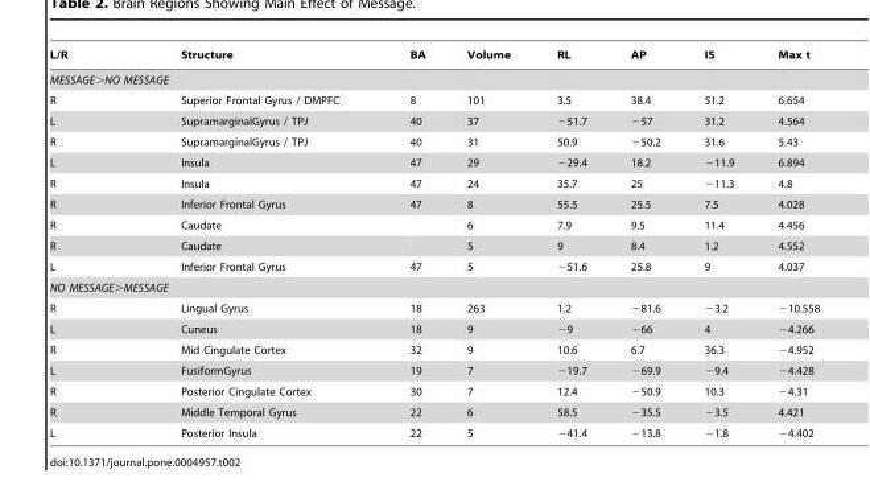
<table><thead><tr><td>L/R</td><td>Structure</td><td>BA</td><td>Volume</td><td>RL</td><td>AP</td><td>IS</td><td>Max t</td></tr></thead><tbody><tr><td colspan="8">MESSAGE&gt;NO MESSAGE</td></tr><tr><td>R</td><td>Superior Frontal Gyrus / DMPFC</td><td>8</td><td>101</td><td>3.5</td><td>38.4</td><td>51.2</td><td>6.654</td></tr><tr><td>L</td><td>SupramarginalGyrus / TPJ</td><td>40</td><td>37</td><td>−51.7</td><td>−57</td><td>31.2</td><td>4.564</td></tr><tr><td>R</td><td>SupramarginalGyrus / TPJ</td><td>40</td><td>31</td><td>50.9</td><td>−50.2</td><td>31.6</td><td>5.43</td></tr><tr><td>L</td><td>Insula</td><td>47</td><td>29</td><td>−29.4</td><td>18.2</td><td>−11.9</td><td>6.894</td></tr><tr><td>R</td><td>Insula</td><td>47</td><td>24</td><td>35.7</td><td>25</td><td>−11.3</td><td>4.8</td></tr><tr><td>R</td><td>Inferior Frontal Gyrus</td><td>47</td><td>8</td><td>55.5</td><td>25.5</td><td>7.5</td><td>4.028</td></tr><tr><td>R</td><td>Caudate</td><td></td><td>6</td><td>7.9</td><td>9.5</td><td>11.4</td><td>4.456</td></tr><tr><td>R</td><td>Caudate</td><td></td><td>5</td><td>9</td><td>8.4</td><td>1.2</td><td>4.552</td></tr><tr><td>L</td><td>Inferior Frontal Gyrus</td><td>47</td><td>5</td><td>−51.6</td><td>25.8</td><td>9</td><td>4.037</td></tr><tr><td colspan="8">NO MESSAGE&gt;MESSAGE</td></tr><tr><td>R</td><td>Lingual Gyrus</td><td>18</td><td>263</td><td>1.2</td><td>−81.6</td><td>−3.2</td><td>−10.558</td></tr><tr><td>L</td><td>Cuneus</td><td>18</td><td>9</td><td>−9</td><td>−66</td><td>4</td><td>−4.266</td></tr><tr><td>R</td><td>Mid Cingulate Cortex</td><td>32</td><td>9</td><td>10.6</td><td>6.7</td><td>36.3</td><td>−4.952</td></tr><tr><td>L</td><td>FusiformGyrus</td><td>19</td><td>7</td><td>−19.7</td><td>−69.9</td><td>−9.4</td><td>−4.428</td></tr><tr><td>R</td><td>Posterior Cingulate Cortex</td><td>30</td><td>7</td><td>12.4</td><td>−50.9</td><td>10.3</td><td>−4.31</td></tr><tr><td>R</td><td>Middle Temporal Gyrus</td><td>22</td><td>6</td><td>58.5</td><td>−35.5</td><td>−3.5</td><td>4.421</td></tr><tr><td>L</td><td>Posterior Insula</td><td>22</td><td>5</td><td>−41.4</td><td>−13.8</td><td>−1.8</td><td>−4.402</td></tr></tbody></table>